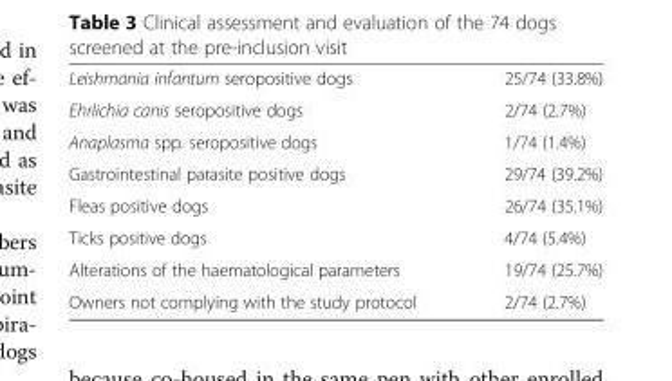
<table><tbody><tr><td>Leishmania infantum seropositive dogs</td><td>25/74 (33.8%)</td></tr><tr><td>Ehrlichia canis seropositive dogs</td><td>2/74 (2.7%)</td></tr><tr><td>Anaplasma spp. seropositive dogs</td><td>1/74 (1.4%)</td></tr><tr><td>Gastrointestinal parasite positive dogs</td><td>29/74 (39.2%)</td></tr><tr><td>Fleas positive dogs</td><td>26/74 (35.1%)</td></tr><tr><td>Ticks positive dogs</td><td>4/74 (5.4%)</td></tr><tr><td>Alterations of the haematological parameters</td><td>19/74 (25.7%)</td></tr><tr><td>Owners not complying with the study protocol</td><td>2/74 (2.7%)</td></tr></tbody></table>